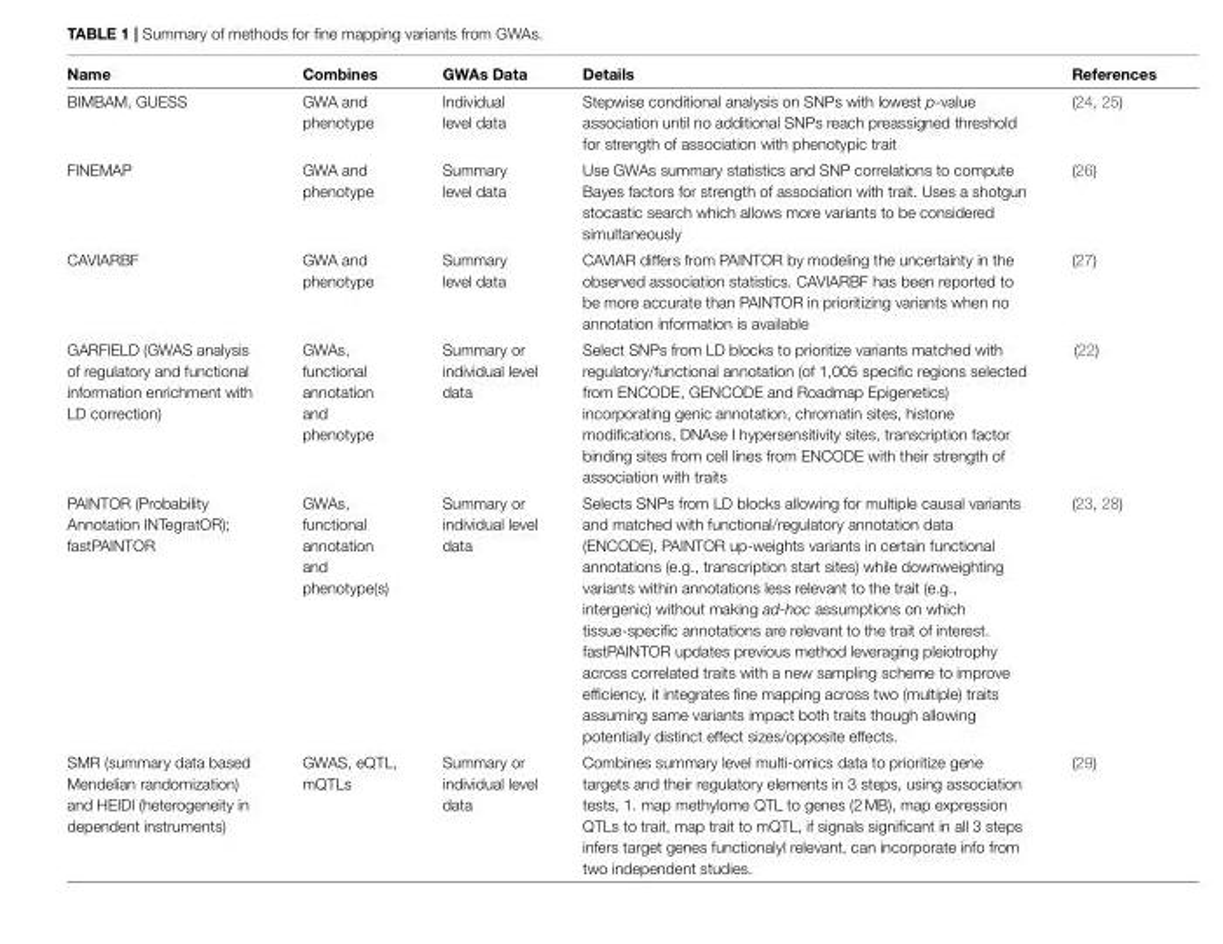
<table><thead><tr><td>Name</td><td>Combines</td><td>GWAs Data</td><td>Details</td><td>References</td></tr></thead><tbody><tr><td>BIMBAM, GUESS</td><td>GWA and phenotype</td><td>Individual level data</td><td>Stepwise conditional analysis on SNPs with lowest p-value association until no additional SNPs reach preassigned threshold for strength of association with phenotypic trait</td><td>(24, 25)</td></tr><tr><td>FINEMAP</td><td>GWA and phenotype</td><td>Summary level data</td><td>Use GWAs summary statistics and SNP correlations to compute Bayes factors for strength of association with trait. Uses a shotgun stocastic search which allows more variants to be considered simultaneously</td><td>(26)</td></tr><tr><td>CAVIARBF</td><td>GWA and phenotype</td><td>Summary level data</td><td>CAVIAR differs from PAINTOR by modeling the uncertainty in the observed association statistics. CAVIARBF has been reported to be more accurate than PAINTOR in prioritizing variants when no annotation information is available</td><td>(27)</td></tr><tr><td>GARFIELD (GWAS analysis of regulatory and functional information enrichment with LD correction)</td><td>GWAs, functional annotation and phenotype</td><td>Summary or individual level data</td><td>Select SNPs from LD blocks to prioritize variants matched with regulatory/functional annotation (of 1,005 specific regions selected from ENCODE, GENCODE and Roadmap Epigenetics) incorporating genic annotation, chromatin sites, histone modifications, DNAse I hypersensitivity sites, transcription factor binding sites from cell lines from ENCODE with their strength of association with traits</td><td>(22)</td></tr><tr><td>PAINTOR (Probability Annotation INTegratOR); fastPAINTOR</td><td>GWAs, functional annotation and phenotype(s)</td><td>Summary or individual level data</td><td>Selects SNPs from LD blocks allowing for multiple causal variants and matched with functional/regulatory annotation data (ENCODE), PAINTOR up-weights variants in certain functional annotations (e.g., transcription start sites) while downweighting variants within annotations less relevant to the trait (e.g., intergenic) without making ad-hoc assumptions on which tissue-specific annotations are relevant to the trait of interest. fastPAINTOR updates previous method leveraging pleiotrophy across correlated traits with a new sampling scheme to improve efficiency, it integrates fine mapping across two (multiple) traits assuming same variants impact both traits though allowing potentially distinct effect sizes/opposite effects.</td><td>(23, 28)</td></tr><tr><td>SMR (summary data based Mendelian randomization) and HEIDI (heterogeneity in dependent instruments)</td><td>GWAS, eQTL, mQTLs</td><td>Summary or individual level data</td><td>Combines summary level multi-omics data to prioritize gene targets and their regulatory elements in 3 steps, using association tests, 1. map methylome QTL to genes (2 MB), map expression QTLs to trait, map trait to mQTL, if signals significant in all 3 steps infers target genes functionalyl relevant, can incorporate info from two independent studies.</td><td>(29)</td></tr></tbody></table>